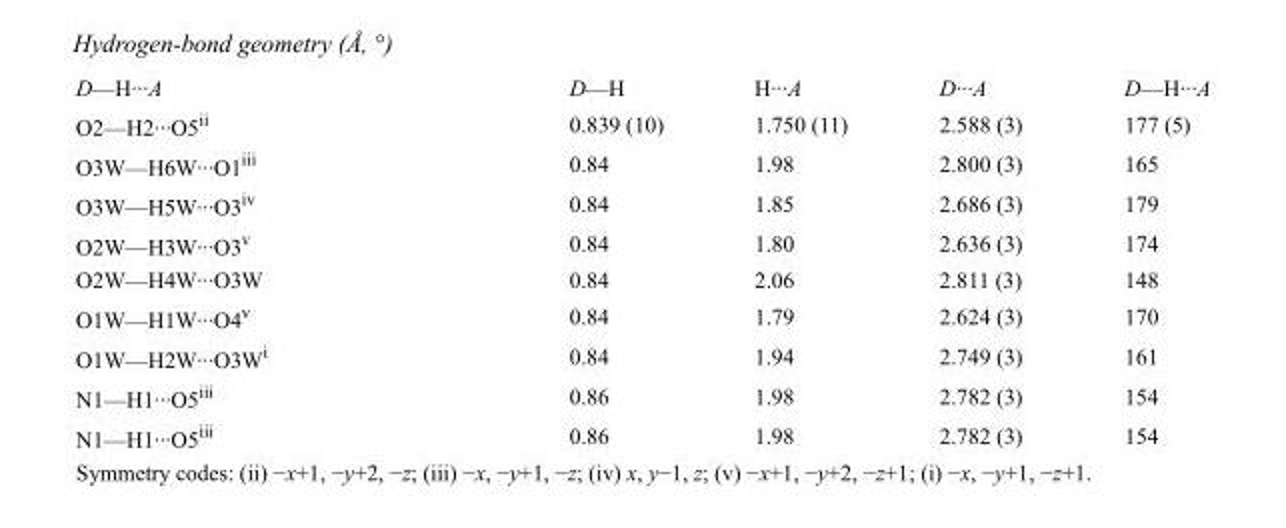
<table><tbody><tr><td>D—H···A</td><td>D—H</td><td>H···A</td><td>D···A</td><td>D—H···A</td></tr><tr><td>O2—H2···O5<sup>ii</sup></td><td>0.839 (10)</td><td>1.750 (11)</td><td>2.588 (3)</td><td>177 (5)</td></tr><tr><td>O3W—H6W···O1<sup>iii</sup></td><td>0.84</td><td>1.98</td><td>2.800 (3)</td><td>165</td></tr><tr><td>O3W—H5W···O3<sup>iv</sup></td><td>0.84</td><td>1.85</td><td>2.686 (3)</td><td>179</td></tr><tr><td>O2W—H3W···O3<sup>v</sup></td><td>0.84</td><td>1.80</td><td>2.636 (3)</td><td>174</td></tr><tr><td>O2W—H4W···O3W</td><td>0.84</td><td>2.06</td><td>2.811 (3)</td><td>148</td></tr><tr><td>O1W—H1W···O4<sup>v</sup></td><td>0.84</td><td>1.79</td><td>2.624 (3)</td><td>170</td></tr><tr><td>O1W—H2W···O3W<sup>i</sup></td><td>0.84</td><td>1.94</td><td>2.749 (3)</td><td>161</td></tr><tr><td>N1—H1···O5<sup>iii</sup></td><td>0.86</td><td>1.98</td><td>2.782 (3)</td><td>154</td></tr><tr><td>N1—H1···O5<sup>iii</sup></td><td>0.86</td><td>1.98</td><td>2.782 (3)</td><td>154</td></tr></tbody></table>